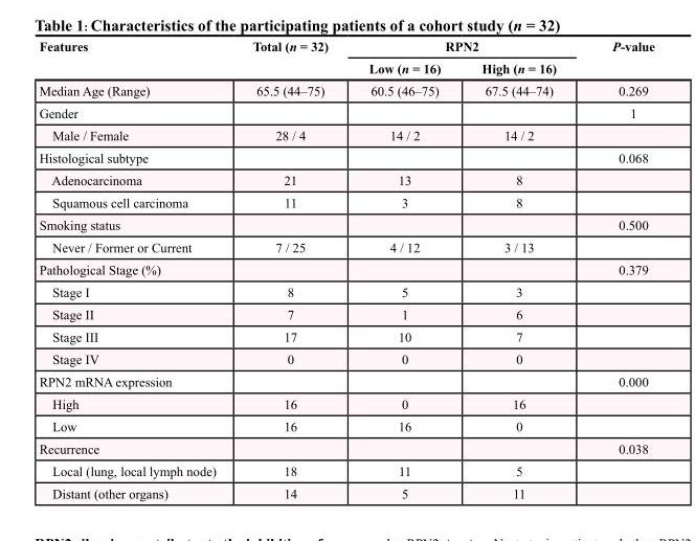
<table><thead><tr><td rowspan="2">Features</td><td rowspan="2">Total (n = 32)</td><td colspan="2">RPN2</td><td rowspan="2">P-value</td></tr><tr><td>Low (n = 16)</td><td>High (n = 16)</td></tr></thead><tbody><tr><td>Median Age (Range)</td><td>65.5 (44–75)</td><td>60.5 (46–75)</td><td>67.5 (44–74)</td><td>0.269</td></tr><tr><td>Gender</td><td></td><td></td><td></td><td>1</td></tr><tr><td>Male / Female</td><td>28 / 4</td><td>14 / 2</td><td>14 / 2</td><td></td></tr><tr><td>Histological subtype</td><td></td><td></td><td></td><td>0.068</td></tr><tr><td>Adenocarcinoma</td><td>21</td><td>13</td><td>8</td><td></td></tr><tr><td>Squamous cell carcinoma</td><td>11</td><td>3</td><td>8</td><td></td></tr><tr><td>Smoking status</td><td></td><td></td><td></td><td>0.500</td></tr><tr><td>Never / Former or Current</td><td>7 / 25</td><td>4 / 12</td><td>3 / 13</td><td></td></tr><tr><td>Pathological Stage (%)</td><td></td><td></td><td></td><td>0.379</td></tr><tr><td>Stage I</td><td>8</td><td>5</td><td>3</td><td></td></tr><tr><td>Stage II</td><td>7</td><td>1</td><td>6</td><td></td></tr><tr><td>Stage III</td><td>17</td><td>10</td><td>7</td><td></td></tr><tr><td>Stage IV</td><td>0</td><td>0</td><td>0</td><td></td></tr><tr><td>RPN2 mRNA expression</td><td></td><td></td><td></td><td>0.000</td></tr><tr><td>High</td><td>16</td><td>0</td><td>16</td><td></td></tr><tr><td>Low</td><td>16</td><td>16</td><td>0</td><td></td></tr><tr><td>Recurrence</td><td></td><td></td><td></td><td>0.038</td></tr><tr><td>Local (lung, local lymph node)</td><td>18</td><td>11</td><td>5</td><td></td></tr><tr><td>Distant (other organs)</td><td>14</td><td>5</td><td>11</td><td></td></tr></tbody></table>